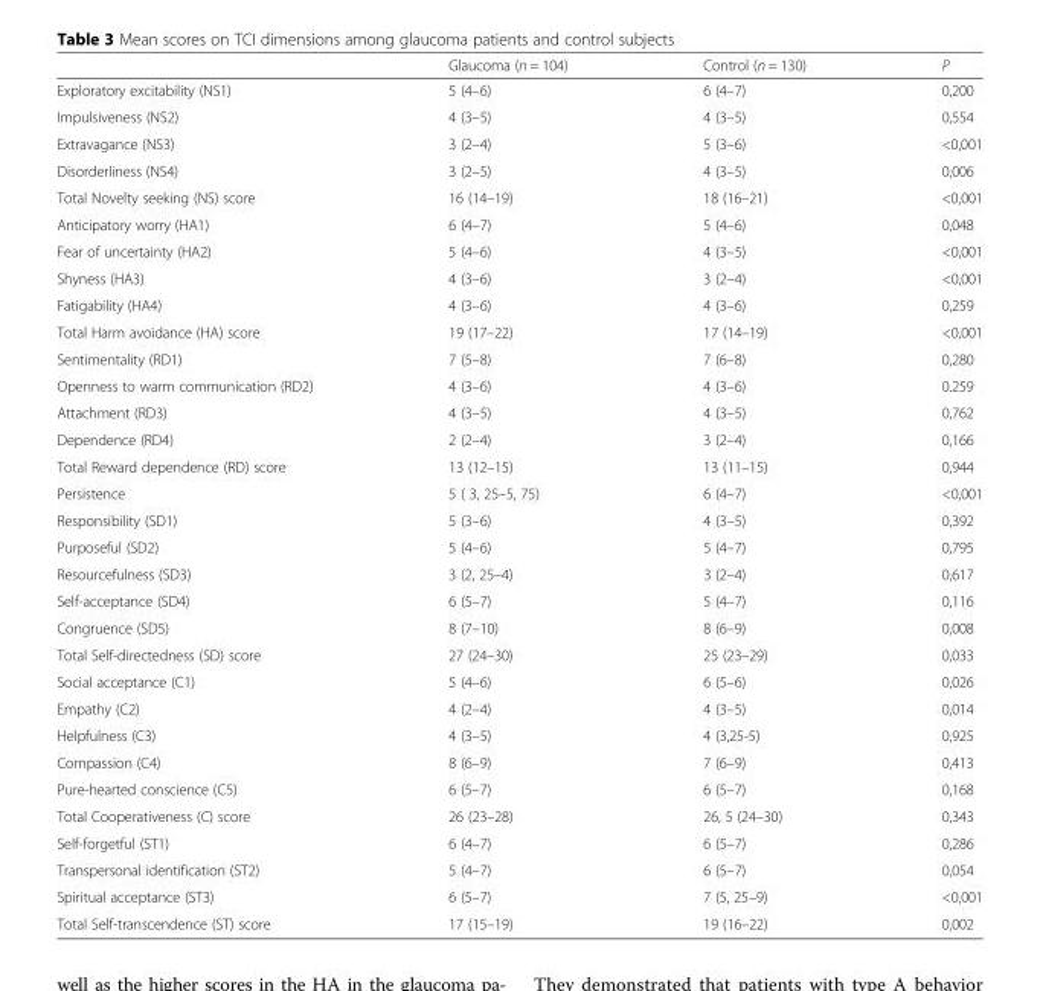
<table><thead><tr><td></td><td>Glaucoma (n = 104)</td><td>Control (n = 130)</td><td>P</td></tr></thead><tbody><tr><td>Exploratory excitability (NS1)</td><td>5 (4–6)</td><td>6 (4–7)</td><td>0,200</td></tr><tr><td>Impulsiveness (NS2)</td><td>4 (3–5)</td><td>4 (3–5)</td><td>0,554</td></tr><tr><td>Extravagance (NS3)</td><td>3 (2–4)</td><td>5 (3–6)</td><td>&lt;0,001</td></tr><tr><td>Disorderliness (NS4)</td><td>3 (2–5)</td><td>4 (3–5)</td><td>0,006</td></tr><tr><td>Total Novelty seeking (NS) score</td><td>16 (14–19)</td><td>18 (16–21)</td><td>&lt;0,001</td></tr><tr><td>Anticipatory worry (HA1)</td><td>6 (4–7)</td><td>5 (4–6)</td><td>0,048</td></tr><tr><td>Fear of uncertainty (HA2)</td><td>5 (4–6)</td><td>4 (3–5)</td><td>&lt;0,001</td></tr><tr><td>Shyness (HA3)</td><td>4 (3–6)</td><td>3 (2–4)</td><td>&lt;0,001</td></tr><tr><td>Fatigability (HA4)</td><td>4 (3–6)</td><td>4 (3–6)</td><td>0,259</td></tr><tr><td>Total Harm avoidance (HA) score</td><td>19 (17–22)</td><td>17 (14–19)</td><td>&lt;0,001</td></tr><tr><td>Sentimentality (RD1)</td><td>7 (5–8)</td><td>7 (6–8)</td><td>0,280</td></tr><tr><td>Openness to warm communication (RD2)</td><td>4 (3–6)</td><td>4 (3–6)</td><td>0.259</td></tr><tr><td>Attachment (RD3)</td><td>4 (3–5)</td><td>4 (3–5)</td><td>0,762</td></tr><tr><td>Dependence (RD4)</td><td>2 (2–4)</td><td>3 (2–4)</td><td>0,166</td></tr><tr><td>Total Reward dependence (RD) score</td><td>13 (12–15)</td><td>13 (11–15)</td><td>0,944</td></tr><tr><td>Persistence</td><td>5 ( 3, 25–5, 75)</td><td>6 (4–7)</td><td>&lt;0,001</td></tr><tr><td>Responsibility (SD1)</td><td>5 (3–6)</td><td>4 (3–5)</td><td>0,392</td></tr><tr><td>Purposeful (SD2)</td><td>5 (4–6)</td><td>5 (4–7)</td><td>0,795</td></tr><tr><td>Resourcefulness (SD3)</td><td>3 (2, 25–4)</td><td>3 (2–4)</td><td>0,617</td></tr><tr><td>Self-acceptance (SD4)</td><td>6 (5–7)</td><td>5 (4–7)</td><td>0,116</td></tr><tr><td>Congruence (SD5)</td><td>8 (7–10)</td><td>8 (6–9)</td><td>0,008</td></tr><tr><td>Total Self-directedness (SD) score</td><td>27 (24–30)</td><td>25 (23–29)</td><td>0,033</td></tr><tr><td>Social acceptance (C1)</td><td>5 (4–6)</td><td>6 (5–6)</td><td>0,026</td></tr><tr><td>Empathy (C2)</td><td>4 (2–4)</td><td>4 (3–5)</td><td>0,014</td></tr><tr><td>Helpfulness (C3)</td><td>4 (3–5)</td><td>4 (3,25-5)</td><td>0,925</td></tr><tr><td>Compassion (C4)</td><td>8 (6–9)</td><td>7 (6–9)</td><td>0,413</td></tr><tr><td>Pure-hearted conscience (C5)</td><td>6 (5–7)</td><td>6 (5–7)</td><td>0,168</td></tr><tr><td>Total Cooperativeness (C) score</td><td>26 (23–28)</td><td>26, 5 (24–30)</td><td>0,343</td></tr><tr><td>Self-forgetful (ST1)</td><td>6 (4–7)</td><td>6 (5–7)</td><td>0,286</td></tr><tr><td>Transpersonal identification (ST2)</td><td>5 (4–7)</td><td>6 (5–7)</td><td>0,054</td></tr><tr><td>Spiritual acceptance (ST3)</td><td>6 (5–7)</td><td>7 (5, 25–9)</td><td>&lt;0,001</td></tr><tr><td>Total Self-transcendence (ST) score</td><td>17 (15–19)</td><td>19 (16–22)</td><td>0,002</td></tr></tbody></table>